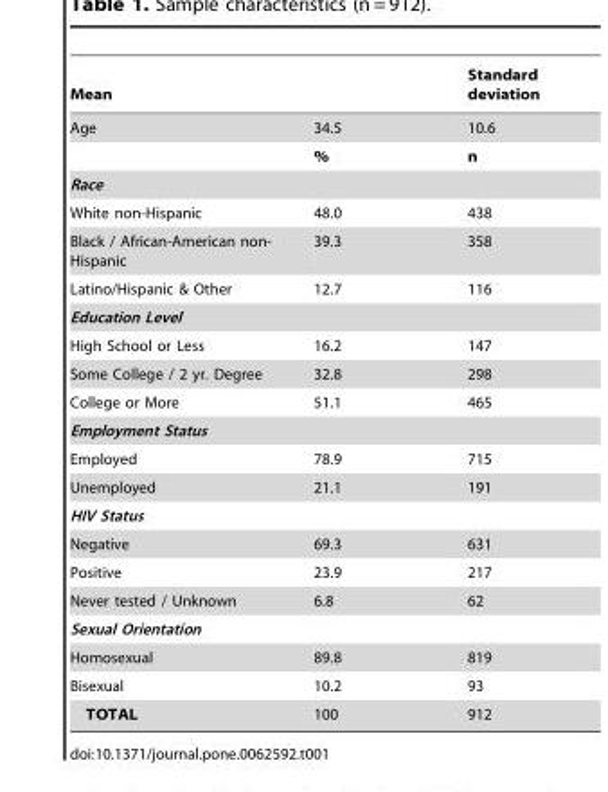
<table><thead><tr><td colspan="2">Mean</td><td rowspan="2">Standard deviation 10.6</td></tr><tr><td>Age</td><td>34.5</td></tr></thead><tbody><tr><td></td><td>%</td><td>n</td></tr><tr><td colspan="3">Race</td></tr><tr><td>White non-Hispanic</td><td>48.0</td><td>438</td></tr><tr><td>Black / African-American non- Hispanic</td><td>39.3</td><td>358</td></tr><tr><td>Latino/Hispanic &amp; Other</td><td>12.7</td><td>116</td></tr><tr><td colspan="3">Education Level</td></tr><tr><td>High School or Less</td><td>16.2</td><td>147</td></tr><tr><td>Some College / 2 yr. Degree</td><td>32.8</td><td>298</td></tr><tr><td>College or More</td><td>51.1</td><td>465</td></tr><tr><td colspan="3">Employment Status</td></tr><tr><td>Employed</td><td>78.9</td><td>715</td></tr><tr><td>Unemployed</td><td>21.1</td><td>191</td></tr><tr><td colspan="3">HIV Status</td></tr><tr><td>Negative</td><td>69.3</td><td>631</td></tr><tr><td>Positive</td><td>23.9</td><td>217</td></tr><tr><td>Never tested / Unknown</td><td>6.8</td><td>62</td></tr><tr><td colspan="3">Sexual Orientation</td></tr><tr><td>Homosexual</td><td>89.8</td><td>819</td></tr><tr><td>Bisexual</td><td>10.2</td><td>93</td></tr><tr><td>TOTAL</td><td>100</td><td>912</td></tr></tbody></table>